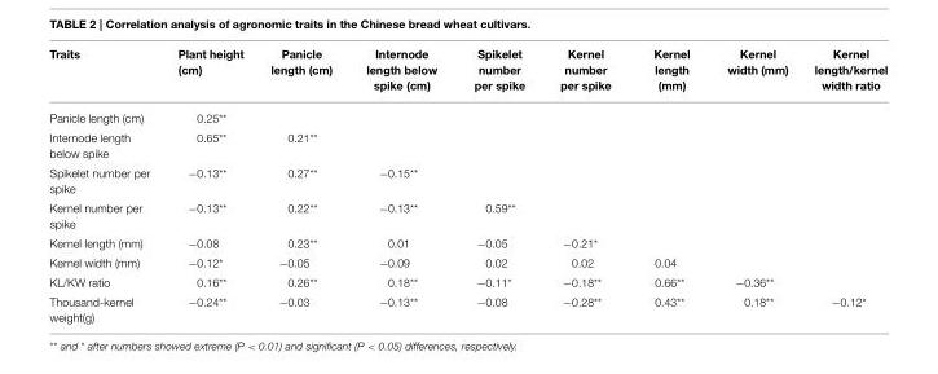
<table><thead><tr><td>Traits</td><td>Plant height (cm)</td><td>Panicle length (cm)</td><td>Internode length below spike (cm)</td><td>Spikelet number per spike</td><td>Kernel number per spike</td><td>Kernel length (mm)</td><td>Kernel width (mm)</td><td>Kernel length/kernel width ratio</td></tr></thead><tbody><tr><td>Panicle length (cm)</td><td>0.25**</td><td></td><td></td><td></td><td></td><td></td><td></td><td></td></tr><tr><td>Internode length below spike</td><td>0.65**</td><td>0.21**</td><td></td><td></td><td></td><td></td><td></td><td></td></tr><tr><td>Spikelet number per spike</td><td>−0.13**</td><td>0.27**</td><td>−0.15**</td><td></td><td></td><td></td><td></td><td></td></tr><tr><td>Kernel number per spike</td><td>−0.13**</td><td>0.22**</td><td>−0.13**</td><td>0.59**</td><td></td><td></td><td></td><td></td></tr><tr><td>Kernel length (mm)</td><td>−0.08</td><td>0.23**</td><td>0.01</td><td>−0.05</td><td>−0.21*</td><td></td><td></td><td></td></tr><tr><td>Kernel width (mm)</td><td>−0.12*</td><td>−0.05</td><td>−0.09</td><td>0.02</td><td>0.02</td><td>0.04</td><td></td><td></td></tr><tr><td>KL/KW ratio</td><td>0.16**</td><td>0.26**</td><td>0.18**</td><td>−0.11*</td><td>−0.18**</td><td>0.66**</td><td>−0.36**</td><td></td></tr><tr><td>Thousand-kernel weight(g)</td><td>−0.24**</td><td>−0.03</td><td>−0.13**</td><td>−0.08</td><td>−0.28**</td><td>0.43**</td><td>0.18**</td><td>−0.12*</td></tr></tbody></table>